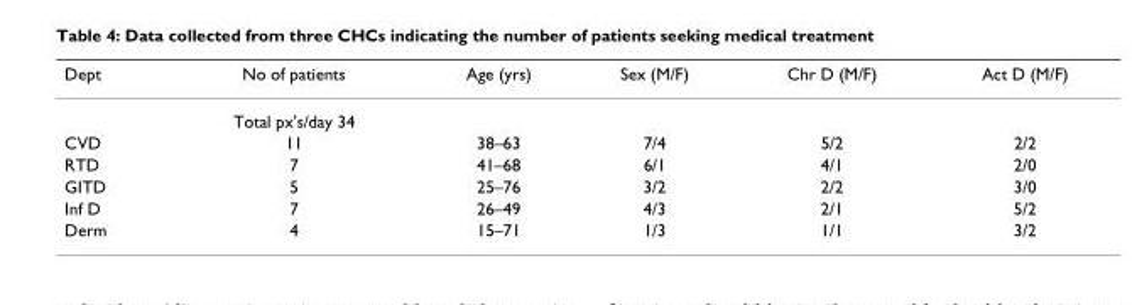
<table><thead><tr><td>Dept</td><td>No of patients</td><td>Age (yrs)</td><td>Sex (M/F)</td><td>Chr D (M/F)</td><td>Act D (M/F)</td></tr></thead><tbody><tr><td></td><td>Total px&#x27;s/day 34</td><td></td><td></td><td></td><td></td></tr><tr><td>CVD</td><td>11</td><td>38–63</td><td>7/4</td><td>5/2</td><td>2/2</td></tr><tr><td>RTD</td><td>7</td><td>41–68</td><td>6/1</td><td>4/1</td><td>2/0</td></tr><tr><td>GITD</td><td>5</td><td>25–76</td><td>3/2</td><td>2/2</td><td>3/0</td></tr><tr><td>Inf D</td><td>7</td><td>26–49</td><td>4/3</td><td>2/1</td><td>5/2</td></tr><tr><td>Derm</td><td>4</td><td>15–71</td><td>1/3</td><td>1/1</td><td>3/2</td></tr></tbody></table>